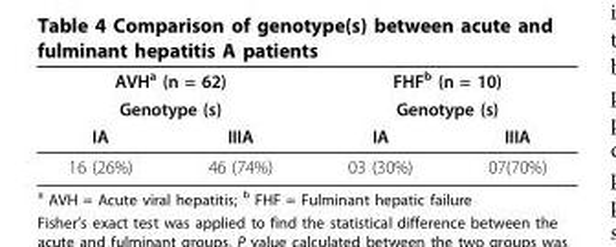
<table><thead><tr><td rowspan="2" colspan="2">AVH<sup>a</sup> (n = 62) Genotype (s)</td><td rowspan="2" colspan="2">FHF<sup>b</sup> (n = 10) Genotype (s)</td></tr><tr></tr><tr><td>IA</td><td>IIIA</td><td>IA</td><td>IIIA</td></tr></thead><tbody><tr><td>16 (26%)</td><td>46 (74%)</td><td>03 (30%)</td><td>07(70%)</td></tr></tbody></table>